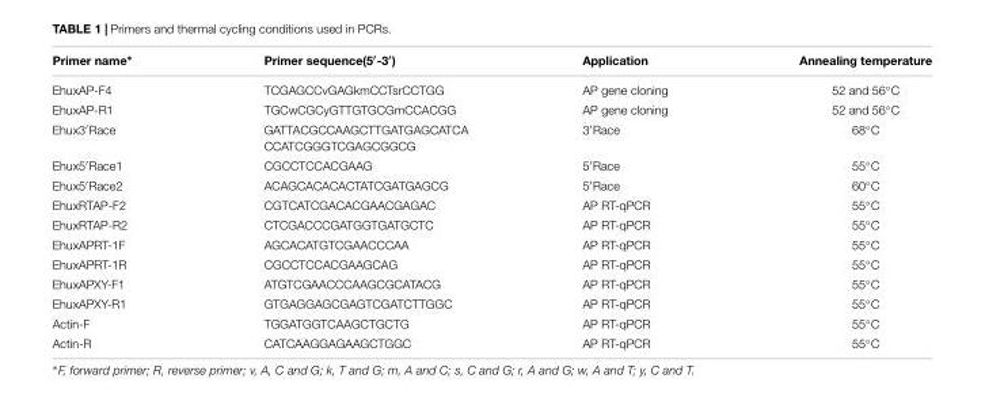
<table><thead><tr><td>Primer name∗</td><td>Primer sequence(5′-3′)</td><td>Application</td><td>Annealing temperature</td></tr></thead><tbody><tr><td>EhuxAP-F4</td><td>TCGAGCCvGAGkmCCTsrCCTGG</td><td>AP gene cloning</td><td>52 and 56◦C</td></tr><tr><td>EhuxAP-R1</td><td>TGCwCGCyGTTGTGCGmCCACGG</td><td>AP gene cloning</td><td>52 and 56◦C</td></tr><tr><td>Ehux3′Race</td><td>GATTACGCCAAGCTTGATGAGCATCA CCATCGGGTCGAGCGGCG</td><td>3′Race</td><td>68◦C</td></tr><tr><td>Ehux5′Race1</td><td>CGCCTCCACGAAG</td><td>5′Race</td><td>55◦C</td></tr><tr><td>Ehux5′Race2</td><td>ACAGCACACACTATCGATGAGCG</td><td>5′Race</td><td>60◦C</td></tr><tr><td>EhuxRTAP-F2</td><td>CGTCATCGACACGAACGAGAC</td><td>AP RT-qPCR</td><td>55◦C</td></tr><tr><td>EhuxRTAP-R2</td><td>CTCGACCCGATGGTGATGCTC</td><td>AP RT-qPCR</td><td>55◦C</td></tr><tr><td>EhuxAPRT-1F</td><td>AGCACATGTCGAACCCAA</td><td>AP RT-qPCR</td><td>55◦C</td></tr><tr><td>EhuxAPRT-1R</td><td>CGCCTCCACGAAGCAG</td><td>AP RT-qPCR</td><td>55◦C</td></tr><tr><td>EhuxAPXY-F1</td><td>ATGTCGAACCCAAGCGCATACG</td><td>AP RT-qPCR</td><td>55◦C</td></tr><tr><td>EhuxAPXY-R1</td><td>GTGAGGAGCGAGTCGATCTTGGC</td><td>AP RT-qPCR</td><td>55◦C</td></tr><tr><td>Actin-F</td><td>TGGATGGTCAAGCTGCTG</td><td>AP RT-qPCR</td><td>55◦C</td></tr><tr><td>Actin-R</td><td>CATCAAGGAGAAGCTGGC</td><td>AP RT-qPCR</td><td>55◦C</td></tr></tbody></table>